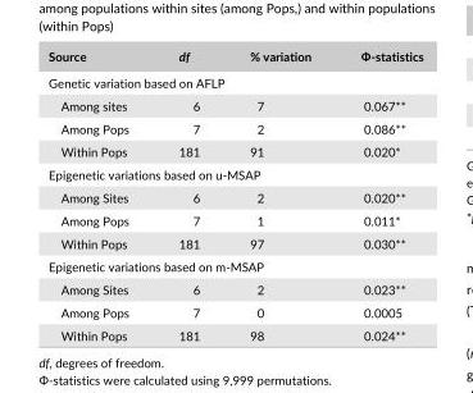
<table><thead><tr><td>Source</td><td>df</td><td>% variation</td><td>Ф- statistics</td></tr></thead><tbody><tr><td colspan="4">Genetic variation based on AFLP</td></tr><tr><td>Among sites</td><td>6</td><td>7</td><td>0.067**</td></tr><tr><td>Among Pops</td><td>7</td><td>2</td><td>0.086**</td></tr><tr><td>Within Pops</td><td>181</td><td>91</td><td>0.020*</td></tr><tr><td colspan="4">Epigenetic variations based on u- MSAP</td></tr><tr><td>Among Sites</td><td>6</td><td>2</td><td>0.020**</td></tr><tr><td>Among Pops</td><td>7</td><td>1</td><td>0.011*</td></tr><tr><td>Within Pops</td><td>181</td><td>97</td><td>0.030**</td></tr><tr><td colspan="4">Epigenetic variations based on m- MSAP</td></tr><tr><td>Among Sites</td><td>6</td><td>2</td><td>0.023**</td></tr><tr><td>Among Pops</td><td>7</td><td>0</td><td>0.0005</td></tr><tr><td>Within Pops</td><td>181</td><td>98</td><td>0.024**</td></tr></tbody></table>